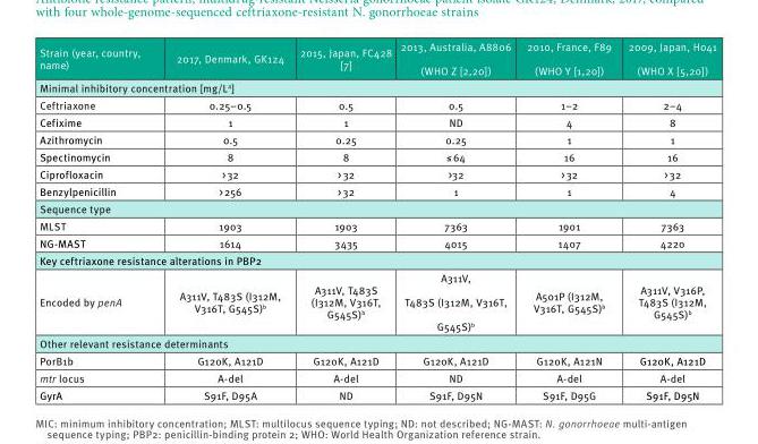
<table><thead><tr><td>Strain (year, country, name)</td><td>2017, Denmark, GK124</td><td>2015, Japan, FC428 [7]</td><td>2013, Australia, A8806 (WHO Z [2,20])</td><td>2010, France, F89 (WHO Y [1,20])</td><td>2009, Japan, H041 (WHO X [5,20])</td></tr></thead><tbody><tr><td colspan="6">Minimal inhibitory concentration [mg/L<sup>a</sup>]</td></tr><tr><td>Ceftriaxone</td><td>0.25–0.5</td><td>0.5</td><td>0.5</td><td>1–2</td><td>2–4</td></tr><tr><td>Cefixime</td><td>1</td><td>1</td><td>ND</td><td>4</td><td>8</td></tr><tr><td>Azithromycin</td><td>0.5</td><td>0.25</td><td>0.25</td><td>1</td><td>1</td></tr><tr><td>Spectinomycin</td><td>8</td><td>8</td><td>≤ 64</td><td>16</td><td>16</td></tr><tr><td>Ciprofloxacin</td><td>&gt; 32</td><td>&gt; 32</td><td>&gt;32</td><td>&gt; 32</td><td>&gt; 32</td></tr><tr><td>Benzylpenicillin</td><td>&gt; 256</td><td>&gt; 32</td><td>1</td><td>1</td><td>4</td></tr><tr><td colspan="6">Sequence type</td></tr><tr><td>MLST</td><td>1903</td><td>1903</td><td>7363</td><td>1901</td><td>7363</td></tr><tr><td>NG-MAST</td><td>1614</td><td>3435</td><td>4015</td><td>1407</td><td>4220</td></tr><tr><td colspan="6">Key ceftriaxone resistance alterations in PBP2</td></tr><tr><td>Encoded by penA</td><td>A311V, T483S (I312M, V316T, G545S)<sup>b</sup></td><td>A311V, T483S (I312M, V316T, G545S)<sup>b</sup></td><td>A311V, T483S (I312M, V316T, G545S)<sup>b</sup></td><td>A501P (I312M, V316T, G545S)<sup>b</sup></td><td>A311V, V316P, T483S (I312M, G545S)<sup>b</sup></td></tr><tr><td colspan="6">Other relevant resistance determinants</td></tr><tr><td>PorB1b</td><td>G120K, A121D</td><td>G120K, A121D</td><td>G120K, A121D</td><td>G120K, A121N</td><td>G120K, A121D</td></tr><tr><td>mtr locus</td><td>A-del</td><td>A-del</td><td>ND</td><td>A-del</td><td>A-del</td></tr><tr><td>GyrA</td><td>S91F, D95A</td><td>ND</td><td>S91F, D95N</td><td>S91F, D95G</td><td>S91F, D95N</td></tr></tbody></table>